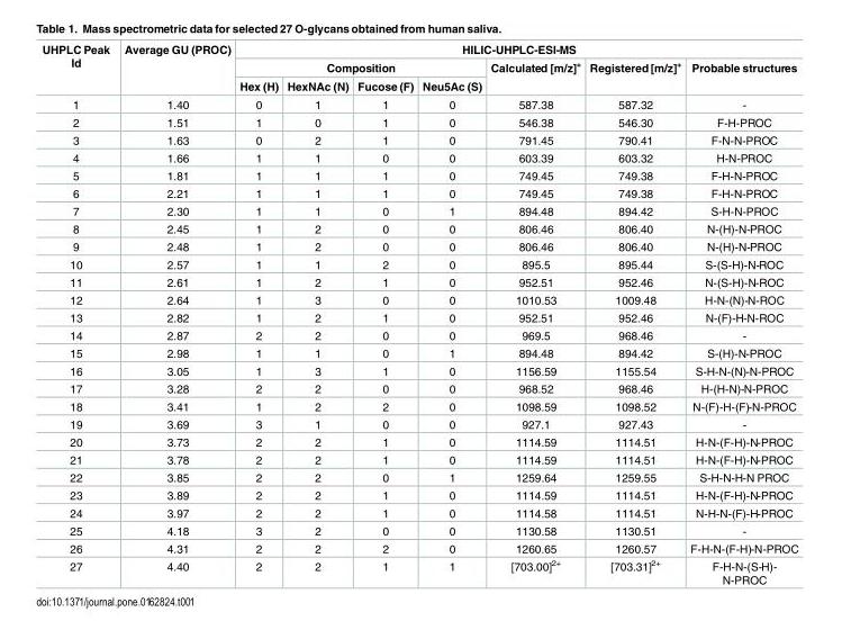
<table><thead><tr><td rowspan="3">UHPLC Peak Id</td><td rowspan="3">Average GU (PROC)</td><td colspan="7">HILIC-UHPLC-ESI-MS</td></tr><tr><td colspan="4">Composition</td><td rowspan="2">Calculated [m/z]<sup>+</sup></td><td rowspan="2">Registered [m/z]<sup>+</sup></td><td rowspan="2">Probable structures</td></tr><tr><td>Hex (H)</td><td>HexNAc (N)</td><td>Fucose (F)</td><td>Neu5Ac (S)</td></tr></thead><tbody><tr><td>1</td><td>1.40</td><td>0</td><td>1</td><td>1</td><td>0</td><td>587.38</td><td>587.32</td><td>-</td></tr><tr><td>2</td><td>1.51</td><td>1</td><td>0</td><td>1</td><td>0</td><td>546.38</td><td>546.30</td><td>F-H-PROC</td></tr><tr><td>3</td><td>1.63</td><td>0</td><td>2</td><td>1</td><td>0</td><td>791.45</td><td>790.41</td><td>F-N-N-PROC</td></tr><tr><td>4</td><td>1.66</td><td>1</td><td>1</td><td>0</td><td>0</td><td>603.39</td><td>603.32</td><td>H-N-PROC</td></tr><tr><td>5</td><td>1.81</td><td>1</td><td>1</td><td>1</td><td>0</td><td>749.45</td><td>749.38</td><td>F-H-N-PROC</td></tr><tr><td>6</td><td>2.21</td><td>1</td><td>1</td><td>1</td><td>0</td><td>749.45</td><td>749.38</td><td>F-H-N-PROC</td></tr><tr><td>7</td><td>2.30</td><td>1</td><td>1</td><td>0</td><td>1</td><td>894.48</td><td>894.42</td><td>S-H-N-PROC</td></tr><tr><td>8</td><td>2.45</td><td>1</td><td>2</td><td>0</td><td>0</td><td>806.46</td><td>806.40</td><td>N-(H)-N-PROC</td></tr><tr><td>9</td><td>2.48</td><td>1</td><td>2</td><td>0</td><td>0</td><td>806.46</td><td>806.40</td><td>N-(H)-N-PROC</td></tr><tr><td>10</td><td>2.57</td><td>1</td><td>1</td><td>2</td><td>0</td><td>895.5</td><td>895.44</td><td>S-(S-H)-N-ROC</td></tr><tr><td>11</td><td>2.61</td><td>1</td><td>2</td><td>1</td><td>0</td><td>952.51</td><td>952.46</td><td>N-(S-H)-N-ROC</td></tr><tr><td>12</td><td>2.64</td><td>1</td><td>3</td><td>0</td><td>0</td><td>1010.53</td><td>1009.48</td><td>H-N-(N)-N-ROC</td></tr><tr><td>13</td><td>2.82</td><td>1</td><td>2</td><td>1</td><td>0</td><td>952.51</td><td>952.46</td><td>N-(F)-H-N-ROC</td></tr><tr><td>14</td><td>2.87</td><td>2</td><td>2</td><td>0</td><td>0</td><td>969.5</td><td>968.46</td><td>-</td></tr><tr><td>15</td><td>2.98</td><td>1</td><td>1</td><td>0</td><td>1</td><td>894.48</td><td>894.42</td><td>S-(H)-N-PROC</td></tr><tr><td>16</td><td>3.05</td><td>1</td><td>3</td><td>1</td><td>0</td><td>1156.59</td><td>1155.54</td><td>S-H-N-(N)-N-PROC</td></tr><tr><td>17</td><td>3.28</td><td>2</td><td>2</td><td>0</td><td>0</td><td>968.52</td><td>968.46</td><td>H-(H-N)-N-PROC</td></tr><tr><td>18</td><td>3.41</td><td>1</td><td>2</td><td>2</td><td>0</td><td>1098.59</td><td>1098.52</td><td>N-(F)-H-(F)-N-PROC</td></tr><tr><td>19</td><td>3.69</td><td>3</td><td>1</td><td>0</td><td>0</td><td>927.1</td><td>927.43</td><td>-</td></tr><tr><td>20</td><td>3.73</td><td>2</td><td>2</td><td>1</td><td>0</td><td>1114.59</td><td>1114.51</td><td>H-N-(F-H)-N-PROC</td></tr><tr><td>21</td><td>3.78</td><td>2</td><td>2</td><td>1</td><td>0</td><td>1114.59</td><td>1114.51</td><td>H-N-(F-H)-N-PROC</td></tr><tr><td>22</td><td>3.85</td><td>2</td><td>2</td><td>0</td><td>1</td><td>1259.64</td><td>1259.55</td><td>S-H-N-H-N PROC</td></tr><tr><td>23</td><td>3.89</td><td>2</td><td>2</td><td>1</td><td>0</td><td>1114.59</td><td>1114.51</td><td>H-N-(F-H)-N-PROC</td></tr><tr><td>24</td><td>3.97</td><td>2</td><td>2</td><td>1</td><td>0</td><td>1114.58</td><td>1114.51</td><td>N-H-N-(F)-H-PROC</td></tr><tr><td>25</td><td>4.18</td><td>3</td><td>2</td><td>0</td><td>0</td><td>1130.58</td><td>1130.51</td><td>-</td></tr><tr><td>26</td><td>4.31</td><td>2</td><td>2</td><td>2</td><td>0</td><td>1260.65</td><td>1260.57</td><td>F-H-N-(F-H)-N-PROC</td></tr><tr><td>27</td><td>4.40</td><td>2</td><td>2</td><td>1</td><td>1</td><td>[703.00]<sup>2+</sup></td><td>[703.31]<sup>2+</sup></td><td>F-H-N-(S-H)- N-PROC</td></tr></tbody></table>